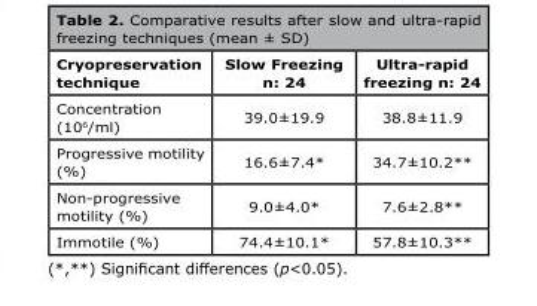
<table><thead><tr><td>Cryopreservation technique</td><td>Slow Freezing n: 24</td><td>Ultra-rapid freezing n: 24</td></tr></thead><tbody><tr><td>Concentration (10<sup>6</sup>/ml)</td><td>39.0±19.9</td><td>38.8±11.9</td></tr><tr><td>Progressive motility (%)</td><td>16.6±7.4*</td><td>34.7±10.2**</td></tr><tr><td>Non-progressive motility (%)</td><td>9.0±4.0*</td><td>7.6±2.8**</td></tr><tr><td>Immotile (%)</td><td>74.4±10.1*</td><td>57.8±10.3**</td></tr></tbody></table>